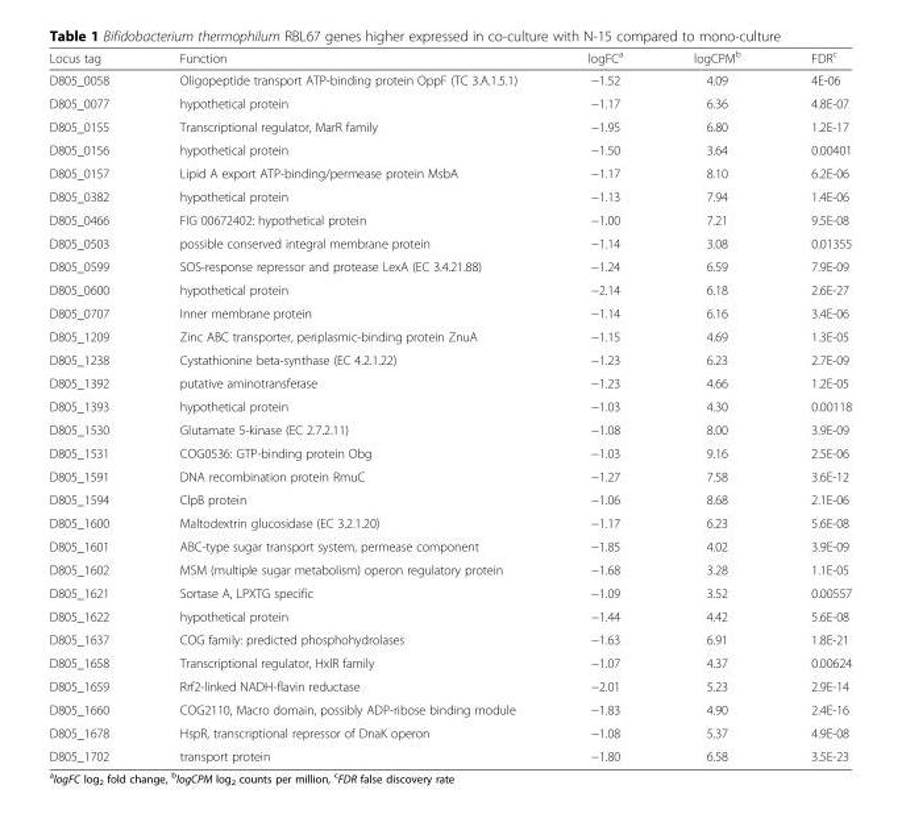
<table><thead><tr><td>Locus tag</td><td>Function</td><td>logFC<sup>a</sup></td><td>logCPM<sup>b</sup></td><td>FDR<sup>c</sup></td></tr></thead><tbody><tr><td>D805_0058</td><td>Oligopeptide transport ATP-binding protein OppF (TC 3.A.1.5.1)</td><td>−1.52</td><td>4.09</td><td>4E-06</td></tr><tr><td>D805_0077</td><td>hypothetical protein</td><td>−1.17</td><td>6.36</td><td>4.8E-07</td></tr><tr><td>D805_0155</td><td>Transcriptional regulator, MarR family</td><td>−1.95</td><td>6.80</td><td>1.2E-17</td></tr><tr><td>D805_0156</td><td>hypothetical protein</td><td>−1.50</td><td>3.64</td><td>0.00401</td></tr><tr><td>D805_0157</td><td>Lipid A export ATP-binding/permease protein MsbA</td><td>−1.17</td><td>8.10</td><td>6.2E-06</td></tr><tr><td>D805_0382</td><td>hypothetical protein</td><td>−1.13</td><td>7.94</td><td>1.4E-06</td></tr><tr><td>D805_0466</td><td>FIG 00672402: hypothetical protein</td><td>−1.00</td><td>7.21</td><td>9.5E-08</td></tr><tr><td>D805_0503</td><td>possible conserved integral membrane protein</td><td>−1.14</td><td>3.08</td><td>0.01355</td></tr><tr><td>D805_0599</td><td>SOS-response repressor and protease LexA (EC 3.4.21.88)</td><td>−1.24</td><td>6.59</td><td>7.9E-09</td></tr><tr><td>D805_0600</td><td>hypothetical protein</td><td>−2.14</td><td>6.18</td><td>2.6E-27</td></tr><tr><td>D805_0707</td><td>Inner membrane protein</td><td>−1.14</td><td>6.16</td><td>3.4E-06</td></tr><tr><td>D805_1209</td><td>Zinc ABC transporter, periplasmic-binding protein ZnuA</td><td>−1.15</td><td>4.69</td><td>1.3E-05</td></tr><tr><td>D805_1238</td><td>Cystathionine beta-synthase (EC 4.2.1.22)</td><td>−1.23</td><td>6.23</td><td>2.7E-09</td></tr><tr><td>D805_1392</td><td>putative aminotransferase</td><td>−1.23</td><td>4.66</td><td>1.2E-05</td></tr><tr><td>D805_1393</td><td>hypothetical protein</td><td>−1.03</td><td>4.30</td><td>0.00118</td></tr><tr><td>D805_1530</td><td>Glutamate 5-kinase (EC 2.7.2.11)</td><td>−1.08</td><td>8.00</td><td>3.9E-09</td></tr><tr><td>D805_1531</td><td>COG0536: GTP-binding protein Obg</td><td>−1.03</td><td>9.16</td><td>2.5E-06</td></tr><tr><td>D805_1591</td><td>DNA recombination protein RmuC</td><td>−1.27</td><td>7.58</td><td>3.6E-12</td></tr><tr><td>D805_1594</td><td>ClpB protein</td><td>−1.06</td><td>8.68</td><td>2.1E-06</td></tr><tr><td>D805_1600</td><td>Maltodextrin glucosidase (EC 3.2.1.20)</td><td>−1.17</td><td>6.23</td><td>5.6E-08</td></tr><tr><td>D805_1601</td><td>ABC-type sugar transport system, permease component</td><td>−1.85</td><td>4.02</td><td>3.9E-09</td></tr><tr><td>D805_1602</td><td>MSM (multiple sugar metabolism) operon regulatory protein</td><td>−1.68</td><td>3.28</td><td>1.1E-05</td></tr><tr><td>D805_1621</td><td>Sortase A, LPXTG specific</td><td>−1.09</td><td>3.52</td><td>0.00557</td></tr><tr><td>D805_1622</td><td>hypothetical protein</td><td>−1.44</td><td>4.42</td><td>5.6E-08</td></tr><tr><td>D805_1637</td><td>COG family: predicted phosphohydrolases</td><td>−1.63</td><td>6.91</td><td>1.8E-21</td></tr><tr><td>D805_1658</td><td>Transcriptional regulator, HxlR family</td><td>−1.07</td><td>4.37</td><td>0.00624</td></tr><tr><td>D805_1659</td><td>Rrf2-linked NADH-flavin reductase</td><td>−2.01</td><td>5.23</td><td>2.9E-14</td></tr><tr><td>D805_1660</td><td>COG2110, Macro domain, possibly ADP-ribose binding module</td><td>−1.83</td><td>4.90</td><td>2.4E-16</td></tr><tr><td>D805_1678</td><td>HspR, transcriptional repressor of DnaK operon</td><td>−1.08</td><td>5.37</td><td>4.9E-08</td></tr><tr><td>D805_1702</td><td>transport protein</td><td>−1.80</td><td>6.58</td><td>3.5E-23</td></tr></tbody></table>